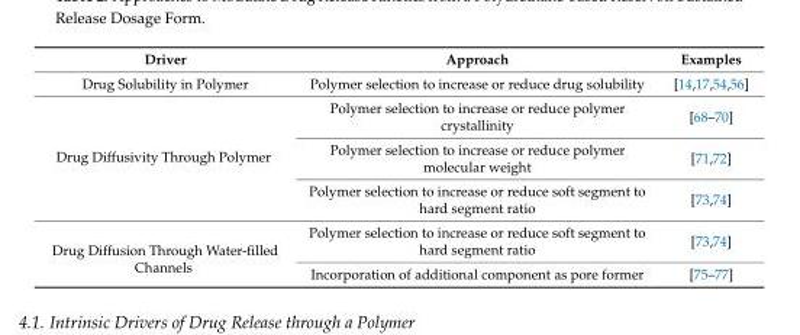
<table><thead><tr><td>Driver</td><td>Approach</td><td>Examples</td></tr></thead><tbody><tr><td>Drug Solubility in Polymer</td><td>Polymer selection to increase or reduce drug solubility</td><td>[14,17,54,56]</td></tr><tr><td rowspan="3">Drug Diffusivity Through Polymer</td><td>Polymer selection to increase or reduce polymer crystallinity</td><td>[68–70]</td></tr><tr><td>Polymer selection to increase or reduce polymer molecular weight</td><td>[71,72]</td></tr><tr><td>Polymer selection to increase or reduce soft segment to hard segment ratio</td><td>[73,74]</td></tr><tr><td rowspan="2">Drug Diffusion Through Water-filled Channels</td><td>Polymer selection to increase or reduce soft segment to hard segment ratio</td><td>[73,74]</td></tr><tr><td>Incorporation of additional component as pore former</td><td>[75–77]</td></tr></tbody></table>